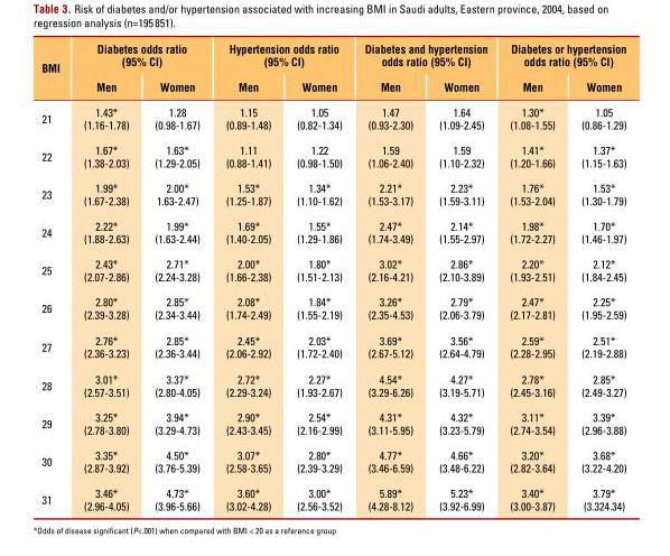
<table><thead><tr><td rowspan="2">BMI</td><td colspan="2">Diabetes odds ratio (95% CI)</td><td colspan="2">Hypertension odds ratio (95% CI)</td><td colspan="2">Diabetes and hypertension odds ratio (95% CI)</td><td colspan="2">Diabetes or hypertension odds ratio (95% CI)</td></tr><tr><td>Men</td><td>Women</td><td>Men</td><td>Women</td><td>Men</td><td>Women</td><td>Men</td><td>Women</td></tr></thead><tbody><tr><td>21</td><td>1.43* (1.16-1.78)</td><td>1.28 (0.98-1.67)</td><td>1.15 (0.89-1.48)</td><td>1.05 (0.82-1.34)</td><td>1.47 (0.93-2.30)</td><td>1.64 (1.09-2.45)</td><td>1.30* (1.08-1.55)</td><td>1.05 (0.86-1.29)</td></tr><tr><td>22</td><td>1.67* (1.38-2.03)</td><td>1.63* (1.29-2.05)</td><td>1.11 (0.88-1.41)</td><td>1.22 (0.98-1.50)</td><td>1.59 (1.06-2.40)</td><td>1.59 (1.10-2.32)</td><td>1.41* (1.20-1.66)</td><td>1.37* (1.15-1.63)</td></tr><tr><td>23</td><td>1.99* (1.67-2.38)</td><td>2.00* 1.63-2.47)</td><td>1.53* (1.25-1.87)</td><td>1.34* (1.10-1.62)</td><td>2.21* (1.53-3.17)</td><td>2.23* (1.59-3.11)</td><td>1.76* (1.53-2.04)</td><td>1.53* (1.30-1.79)</td></tr><tr><td>24</td><td>2.22* (1.88-2.63)</td><td>1.99* (1.63-2.44)</td><td>1.69* (1.40-2.05)</td><td>1.55* (1.29-1.86)</td><td>2.47* (1.74-3.49)</td><td>2.14* (1.55-2.97)</td><td>1.98* (1.72-2.27)</td><td>1.70* (1.46-1.97)</td></tr><tr><td>25</td><td>2.43* (2.07-2.86)</td><td>2.71* (2.24-3.28)</td><td>2.00* (1.66-2.38)</td><td>1.80* (1.51-2.13)</td><td>3.02* (2.16-4.21)</td><td>2.86* (2.10-3.89)</td><td>2.20* (1.93-2.51)</td><td>2.12* (1.84-2.45)</td></tr><tr><td>26</td><td>2.80* (2.39-3.28)</td><td>2.85* (2.34-3.44)</td><td>2.08* (1.74-2.49)</td><td>1.84* (1.55-2.19)</td><td>3.26* (2.35-4.53)</td><td>2.79* (2.06-3.79)</td><td>2.47* (2.17-2.81)</td><td>2.25* (1.95-2.59)</td></tr><tr><td>27</td><td>2.76* (2.36-3.23)</td><td>2.85* (2.36-3.44)</td><td>2.45* (2.06-2.92)</td><td>2.03* (1.72-2.40)</td><td>3.69* (2.67-5.12)</td><td>3.56* (2.64-4.79)</td><td>2.59* (2.28-2.95)</td><td>2.51* (2.19-2.88)</td></tr><tr><td>28</td><td>3.01* (2.57-3.51)</td><td>3.37* (2.80-4.05)</td><td>2.72* (2.29-3.24)</td><td>2.27* (1.93-2.67)</td><td>4.54* (3.29-6.26)</td><td>4.27* (3.19-5.71)</td><td>2.78* (2.45-3.16)</td><td>2.85* (2.49-3.27)</td></tr><tr><td>29</td><td>3.25* (2.78-3.80)</td><td>3.94* (3.29-4.73)</td><td>2.90* (2.43-3.45)</td><td>2.54* (2.16-2.99)</td><td>4.31* (3.11-5.95)</td><td>4.32* (3.23-5.79)</td><td>3.11* (2.74-3.54)</td><td>3.39* (2.96-3.88)</td></tr><tr><td>30</td><td>3.35* (2.87-3.92)</td><td>4.50* (3.76-5.39)</td><td>3.07* (2.58-3.65)</td><td>2.80* (2.39-3.29)</td><td>4.77* (3.46-6.59)</td><td>4.66* (3.48-6.22)</td><td>3.20* (2.82-3.64)</td><td>3.68* (3.22-4.20)</td></tr><tr><td>31</td><td>3.46* (2.96-4.05)</td><td>4.73* (3.96-5.66)</td><td>3.60* (3.02-4.28)</td><td>3.00* (2.56-3.52)</td><td>5.89* (4.28-8.12)</td><td>5.23* (3.92-6.99)</td><td>3.40* (3.00-3.87)</td><td>3.79* (3.324.34)</td></tr></tbody></table>